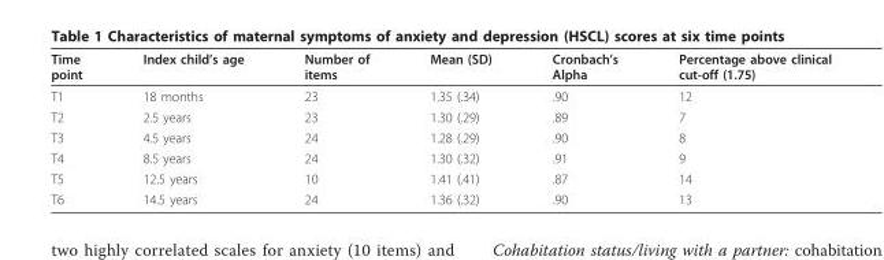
<table><thead><tr><td>Time point</td><td>Index child’s age</td><td>Number of items</td><td>Mean (SD)</td><td>Cronbach’s Alpha</td><td>Percentage above clinical cut-off (1.75)</td></tr></thead><tbody><tr><td>T1</td><td>18 months</td><td>23</td><td>1.35 (.34)</td><td>.90</td><td>12</td></tr><tr><td>T2</td><td>2.5 years</td><td>23</td><td>1.30 (.29)</td><td>.89</td><td>7</td></tr><tr><td>T3</td><td>4.5 years</td><td>24</td><td>1.28 (.29)</td><td>.90</td><td>8</td></tr><tr><td>T4</td><td>8.5 years</td><td>24</td><td>1.30 (.32)</td><td>.91</td><td>9</td></tr><tr><td>T5</td><td>12.5 years</td><td>10</td><td>1.41 (.41)</td><td>.87</td><td>14</td></tr><tr><td>T6</td><td>14.5 years</td><td>24</td><td>1.36 (.32)</td><td>.90</td><td>13</td></tr></tbody></table>